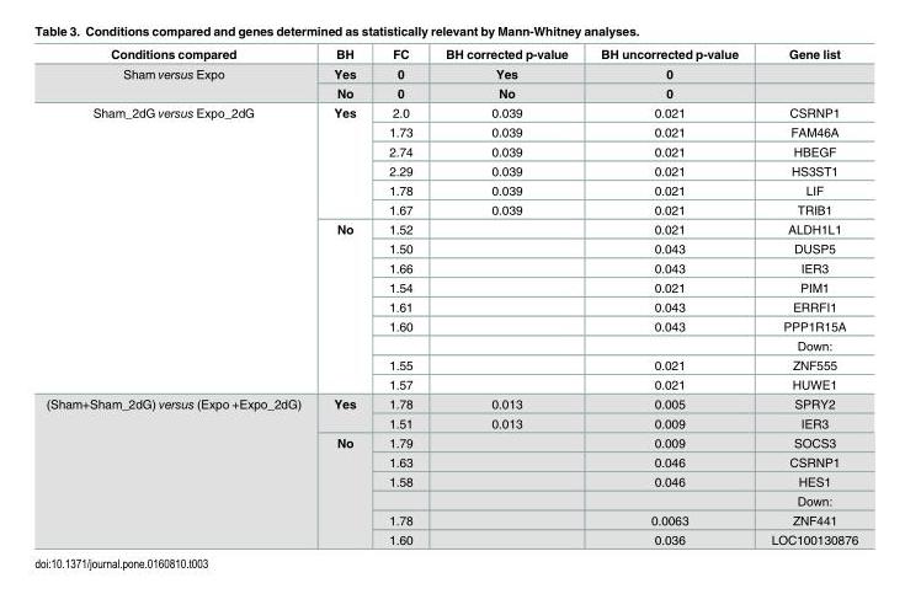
<table><thead><tr><td>Conditions compared</td><td>BH</td><td>FC</td><td>BH corrected p-value</td><td>BH uncorrected p-value</td><td>Gene list</td></tr></thead><tbody><tr><td rowspan="2">Sham versus Expo</td><td>Yes</td><td>0</td><td>Yes</td><td>0</td><td></td></tr><tr><td>No</td><td>0</td><td>No</td><td>0</td><td></td></tr><tr><td rowspan="15">Sham_2dG versus Expo_2dG</td><td rowspan="6">Yes</td><td>2.0</td><td>0.039</td><td>0.021</td><td>CSRNP1</td></tr><tr><td>1.73</td><td>0.039</td><td>0.021</td><td>FAM46A</td></tr><tr><td>2.74</td><td>0.039</td><td>0.021</td><td>HBEGF</td></tr><tr><td>2.29</td><td>0.039</td><td>0.021</td><td>HS3ST1</td></tr><tr><td>1.78</td><td>0.039</td><td>0.021</td><td>LIF</td></tr><tr><td>1.67</td><td>0.039</td><td>0.021</td><td>TRIB1</td></tr><tr><td rowspan="9">No</td><td>1.52</td><td></td><td>0.021</td><td>ALDH1L1</td></tr><tr><td>1.50</td><td></td><td>0.043</td><td>DUSP5</td></tr><tr><td>1.66</td><td></td><td>0.043</td><td>IER3</td></tr><tr><td>1.54</td><td></td><td>0.021</td><td>PIM1</td></tr><tr><td>1.61</td><td></td><td>0.043</td><td>ERRFI1</td></tr><tr><td>1.60</td><td></td><td>0.043</td><td>PPP1R15A</td></tr><tr><td></td><td></td><td></td><td>Down:</td></tr><tr><td>1.55</td><td></td><td>0.021</td><td>ZNF555</td></tr><tr><td>1.57</td><td></td><td>0.021</td><td>HUWE1</td></tr><tr><td rowspan="8">(Sham+Sham_2dG) versus (Expo +Expo_2dG)</td><td rowspan="2">Yes</td><td>1.78</td><td>0.013</td><td>0.005</td><td>SPRY2</td></tr><tr><td>1.51</td><td>0.013</td><td>0.009</td><td>IER3</td></tr><tr><td rowspan="6">No</td><td>1.79</td><td></td><td>0.009</td><td>SOCS3</td></tr><tr><td>1.63</td><td></td><td>0.046</td><td>CSRNP1</td></tr><tr><td>1.58</td><td></td><td>0.046</td><td>HES1</td></tr><tr><td></td><td></td><td></td><td>Down:</td></tr><tr><td>1.78</td><td></td><td>0.0063</td><td>ZNF441</td></tr><tr><td>1.60</td><td></td><td>0.036</td><td>LOC100130876</td></tr></tbody></table>